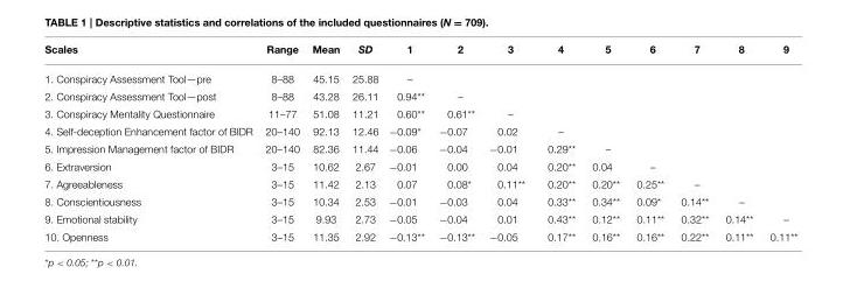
<table><thead><tr><td>Scales</td><td>Range</td><td>Mean</td><td>SD</td><td>1</td><td>2</td><td>3</td><td>4</td><td>5</td><td>6</td><td>7</td><td>8</td><td>9</td></tr></thead><tbody><tr><td>1. Conspiracy Assessment Tool—pre</td><td>8–88</td><td>45.15</td><td>25.88</td><td>–</td><td></td><td></td><td></td><td></td><td></td><td></td><td></td><td></td></tr><tr><td>2. Conspiracy Assessment Tool—post</td><td>8–88</td><td>43.28</td><td>26.11</td><td>0.94**</td><td>–</td><td></td><td></td><td></td><td></td><td></td><td></td><td></td></tr><tr><td>3. Conspiracy Mentality Questionnaire</td><td>11–77</td><td>51.08</td><td>11.21</td><td>0.60**</td><td>0.61**</td><td>–</td><td></td><td></td><td></td><td></td><td></td><td></td></tr><tr><td>4. Self-deception Enhancement factor of BIDR</td><td>20–140</td><td>92.13</td><td>12.46</td><td>−0.09*</td><td>−0.07</td><td>0.02</td><td>–</td><td></td><td></td><td></td><td></td><td></td></tr><tr><td>5. Impression Management factor of BIDR</td><td>20–140</td><td>82.36</td><td>11.44</td><td>−0.06</td><td>−0.04</td><td>−0.01</td><td>0.29**</td><td>–</td><td></td><td></td><td></td><td></td></tr><tr><td>6. Extraversion</td><td>3–15</td><td>10.62</td><td>2.67</td><td>−0.01</td><td>0.00</td><td>0.04</td><td>0.20**</td><td>0.04</td><td>–</td><td></td><td></td><td></td></tr><tr><td>7. Agreeableness</td><td>3–15</td><td>11.42</td><td>2.13</td><td>0.07</td><td>0.08*</td><td>0.11**</td><td>0.20**</td><td>0.20**</td><td>0.25**</td><td>–</td><td></td><td></td></tr><tr><td>8. Conscientiousness</td><td>3–15</td><td>10.34</td><td>2.53</td><td>−0.01</td><td>−0.03</td><td>0.04</td><td>0.33**</td><td>0.34**</td><td>0.09*</td><td>0.14**</td><td>–</td><td></td></tr><tr><td>9. Emotional stability</td><td>3–15</td><td>9.93</td><td>2.73</td><td>−0.05</td><td>−0.04</td><td>0.01</td><td>0.43**</td><td>0.12**</td><td>0.11**</td><td>0.32**</td><td>0.14**</td><td>–</td></tr><tr><td>10. Openness</td><td>3–15</td><td>11.35</td><td>2.92</td><td>−0.13**</td><td>−0.13**</td><td>−0.05</td><td>0.17**</td><td>0.16**</td><td>0.16**</td><td>0.22**</td><td>0.11**</td><td>0.11**</td></tr></tbody></table>